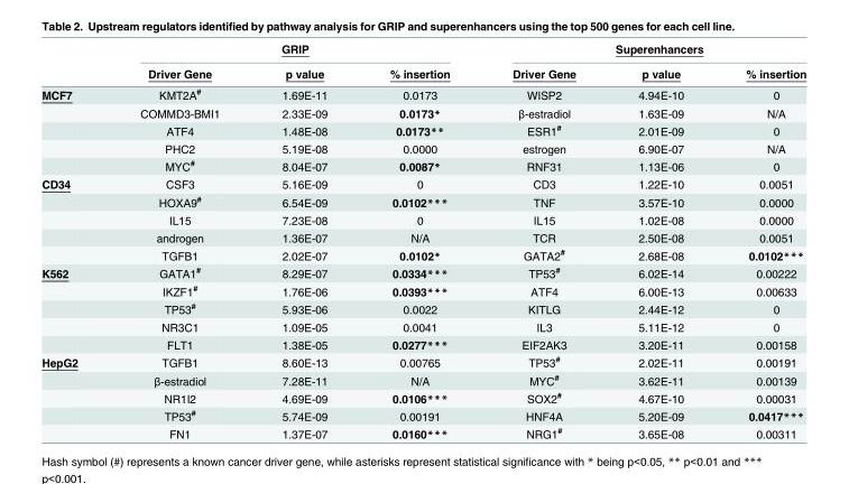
<table><thead><tr><td rowspan="2"></td><td colspan="3">GRIP</td><td colspan="3">Superenhancers</td></tr><tr><td>Driver Gene</td><td>p value</td><td>% insertion</td><td>Driver Gene</td><td>p value</td><td>% insertion</td></tr></thead><tbody><tr><td rowspan="5">MCF7</td><td>KMT2A<sup>#</sup></td><td>1.69E-11</td><td>0.0173</td><td>WISP2</td><td>4.94E-10</td><td>0</td></tr><tr><td>COMMD3-BMI1</td><td>2.33E-09</td><td>0.0173*</td><td>β-estradiol</td><td>1.63E-09</td><td>N/A</td></tr><tr><td>ATF4</td><td>1.48E-08</td><td>0.0173**</td><td>ESR1<sup>#</sup></td><td>2.01E-09</td><td>0</td></tr><tr><td>PHC2</td><td>5.19E-08</td><td>0.0000</td><td>estrogen</td><td>6.90E-07</td><td>N/A</td></tr><tr><td>MYC<sup>#</sup></td><td>8.04E-07</td><td>0.0087*</td><td>RNF31</td><td>1.13E-06</td><td>0</td></tr><tr><td rowspan="5">CD34</td><td>CSF3</td><td>5.16E-09</td><td>0</td><td>CD3</td><td>1.22E-10</td><td>0.0051</td></tr><tr><td>HOXA9<sup>#</sup></td><td>6.54E-09</td><td>0.0102***</td><td>TNF</td><td>3.57E-10</td><td>0.0000</td></tr><tr><td>IL15</td><td>7.23E-08</td><td>0</td><td>IL15</td><td>1.02E-08</td><td>0.0000</td></tr><tr><td>androgen</td><td>1.36E-07</td><td>N/A</td><td>TCR</td><td>2.50E-08</td><td>0.0051</td></tr><tr><td>TGFB1</td><td>2.02E-07</td><td>0.0102*</td><td>GATA2<sup>#</sup></td><td>2.68E-08</td><td>0.0102***</td></tr><tr><td rowspan="5">K562</td><td>GATA1<sup>#</sup></td><td>8.29E-07</td><td>0.0334***</td><td>TP53<sup>#</sup></td><td>6.02E-14</td><td>0.00222</td></tr><tr><td>IKZF1<sup>#</sup></td><td>1.76E-06</td><td>0.0393***</td><td>ATF4</td><td>6.00E-13</td><td>0.00633</td></tr><tr><td>TP53<sup>#</sup></td><td>5.93E-06</td><td>0.0022</td><td>KITLG</td><td>2.44E-12</td><td>0</td></tr><tr><td>NR3C1</td><td>1.09E-05</td><td>0.0041</td><td>IL3</td><td>5.11E-12</td><td>0</td></tr><tr><td>FLT1</td><td>1.38E-05</td><td>0.0277***</td><td>EIF2AK3</td><td>3.20E-11</td><td>0.00158</td></tr><tr><td rowspan="5">HepG2</td><td>TGFB1</td><td>8.60E-13</td><td>0.00765</td><td>TP53<sup>#</sup></td><td>2.02E-11</td><td>0.00191</td></tr><tr><td>β-estradiol</td><td>7.28E-11</td><td>N/A</td><td>MYC<sup>#</sup></td><td>3.62E-11</td><td>0.00139</td></tr><tr><td>NR1I2</td><td>4.69E-09</td><td>0.0106***</td><td>SOX2<sup>#</sup></td><td>4.67E-10</td><td>0.00031</td></tr><tr><td>TP53<sup>#</sup></td><td>5.74E-09</td><td>0.00191</td><td>HNF4A</td><td>5.20E-09</td><td>0.0417***</td></tr><tr><td>FN1</td><td>1.37E-07</td><td>0.0160***</td><td>NRG1<sup>#</sup></td><td>3.65E-08</td><td>0.00311</td></tr></tbody></table>